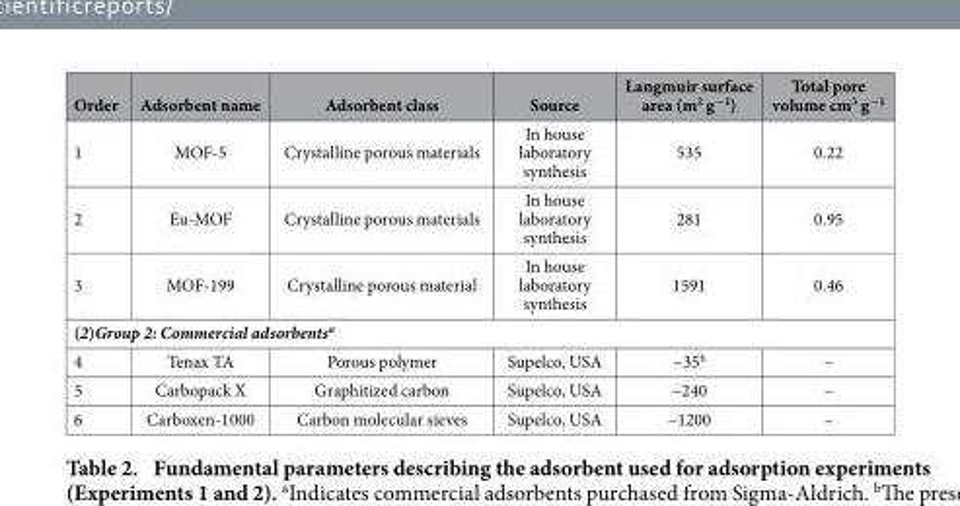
<table><thead><tr><td>Order</td><td>Adsorbent name</td><td>Adsorbent class</td><td>Source</td><td>Langmuir surface area (m<sup>2</sup> g<sup>−1</sup>)</td><td>Total pore volume cm<sup>3</sup> g<sup>−1</sup></td></tr></thead><tbody><tr><td>1</td><td>MOF-5</td><td>Crystalline porous materials</td><td>In house laboratory synthesis</td><td>535</td><td>0.22</td></tr><tr><td>2</td><td>Eu-MOF</td><td>Crystalline porous materials</td><td>In house laboratory synthesis</td><td>281</td><td>0.95</td></tr><tr><td>3</td><td>MOF-199</td><td>Crystalline porous material</td><td>In house laboratory synthesis</td><td>1591</td><td>0.46</td></tr><tr><td colspan="6">(2)Group 2: Commercial adsorbents<sup>a</sup></td></tr><tr><td>4</td><td>Tenax TA</td><td>Porous polymer</td><td>Supelco, USA</td><td>~35<sup>b</sup></td><td>–</td></tr><tr><td>5</td><td>Carbopack X</td><td>Graphitized carbon</td><td>Supelco, USA</td><td>~240</td><td>–</td></tr><tr><td>6</td><td>Carboxen-1000</td><td>Carbon molecular sieves</td><td>Supelco, USA</td><td>~1200</td><td>–</td></tr></tbody></table>